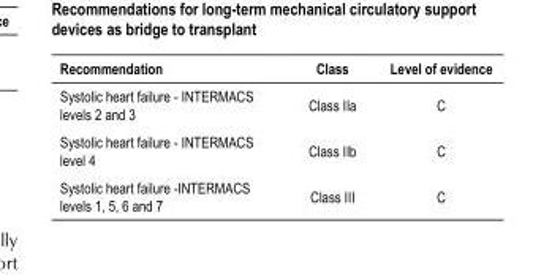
<table><thead><tr><td>Recommendation</td><td>Class</td><td>Level of evidence</td></tr></thead><tbody><tr><td>Systolic heart failure ‑ INTERMACS levels 2 and 3</td><td>Class IIa</td><td>C</td></tr><tr><td>Systolic heart failure ‑ INTERMACS level 4</td><td>Class IIb</td><td>C</td></tr><tr><td>Systolic heart failure ‑INTERMACS levels 1, 5, 6 and 7</td><td>Class III</td><td>C</td></tr></tbody></table>